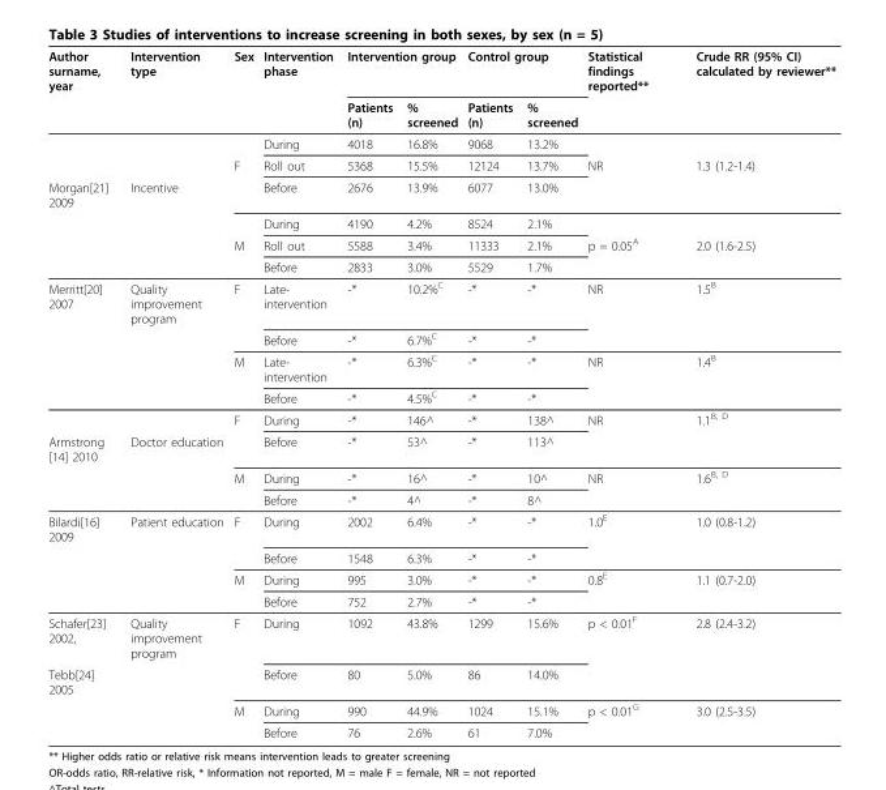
<table><thead><tr><td rowspan="2">Author surname, year</td><td rowspan="2">Intervention type</td><td rowspan="2">Sex</td><td rowspan="2">Intervention phase</td><td colspan="2">Intervention group</td><td colspan="2">Control group</td><td rowspan="2">Statistical findings reported**</td><td rowspan="2">Crude RR (95% CI) calculated by reviewer**</td></tr><tr><td>Patients (n)</td><td>% screened</td><td>Patients (n)</td><td>% screened</td></tr></thead><tbody><tr><td></td><td></td><td></td><td>During</td><td>4018</td><td>16.8%</td><td>9068</td><td>13.2%</td><td></td><td></td></tr><tr><td></td><td></td><td>F</td><td>Roll out</td><td>5368</td><td>15.5%</td><td>12124</td><td>13.7%</td><td>NR</td><td>1.3 (1.2-1.4)</td></tr><tr><td rowspan="4">Morgan[21] 2009</td><td>Incentive</td><td></td><td>Before</td><td>2676</td><td>13.9%</td><td>6077</td><td>13.0%</td><td></td><td></td></tr><tr><td></td><td></td><td>During</td><td>4190</td><td>4.2%</td><td>8524</td><td>2.1%</td><td></td><td></td></tr><tr><td></td><td>M</td><td>Roll out</td><td>5588</td><td>3.4%</td><td>11333</td><td>2.1%</td><td>p = 0.05<sup>A</sup></td><td>2.0 (1.6-2.5)</td></tr><tr><td></td><td></td><td>Before</td><td>2833</td><td>3.0%</td><td>5529</td><td>1.7%</td><td></td><td></td></tr><tr><td rowspan="5">Merritt[20] 2007</td><td>Quality improvement program</td><td>F</td><td>Late- intervention</td><td>-*</td><td>10.2%<sup>C</sup></td><td>-*</td><td>-*</td><td>NR</td><td>1.5<sup>B</sup></td></tr><tr><td></td><td></td><td>Before</td><td>-*</td><td>6.7%<sup>C</sup></td><td>-*</td><td>-*</td><td></td><td></td></tr><tr><td></td><td>M</td><td>Late- intervention</td><td>-*</td><td>6.3%<sup>C</sup></td><td>-*</td><td>-*</td><td>NR</td><td>1.4<sup>B</sup></td></tr><tr><td></td><td></td><td>Before</td><td>-*</td><td>4.5%<sup>C</sup></td><td>-*</td><td>-*</td><td></td><td></td></tr><tr><td></td><td>F</td><td>During</td><td>-*</td><td>146^</td><td>-*</td><td>138^</td><td>NR</td><td>1.1<sup>B, D</sup></td></tr><tr><td rowspan="3">Armstrong [14] 2010</td><td>Doctor education</td><td></td><td>Before</td><td>-*</td><td>53^</td><td>-*</td><td>113^</td><td></td><td></td></tr><tr><td></td><td>M</td><td>During</td><td>-*</td><td>16^</td><td>-*</td><td>10^</td><td>NR</td><td>1.6<sup>B, D</sup></td></tr><tr><td></td><td></td><td>Before</td><td>-*</td><td>4^</td><td>-*</td><td>8^</td><td></td><td></td></tr><tr><td rowspan="4">Bilardi[16] 2009</td><td>Patient education</td><td>F</td><td>During</td><td>2002</td><td>6.4%</td><td>-*</td><td>-*</td><td>1.0<sup>E</sup></td><td>1.0 (0.8-1.2)</td></tr><tr><td></td><td></td><td>Before</td><td>1548</td><td>6.3%</td><td>-*</td><td>-*</td><td></td><td></td></tr><tr><td></td><td>M</td><td>During</td><td>995</td><td>3.0%</td><td>-*</td><td>-*</td><td>0.8<sup>E</sup></td><td>1.1 (0.7-2.0)</td></tr><tr><td></td><td></td><td>Before</td><td>752</td><td>2.7%</td><td>-*</td><td>-*</td><td></td><td></td></tr><tr><td>Schafer[23] 2002,</td><td>Quality improvement program</td><td>F</td><td>During</td><td>1092</td><td>43.8%</td><td>1299</td><td>15.6%</td><td>p &lt; 0.01<sup>F</sup></td><td>2.8 (2.4-3.2)</td></tr><tr><td rowspan="3">Tebb[24] 2005</td><td></td><td></td><td>Before</td><td>80</td><td>5.0%</td><td>86</td><td>14.0%</td><td></td><td></td></tr><tr><td></td><td>M</td><td>During</td><td>990</td><td>44.9%</td><td>1024</td><td>15.1%</td><td>p &lt; 0.01<sup>G</sup></td><td>3.0 (2.5-3.5)</td></tr><tr><td></td><td></td><td>Before</td><td>76</td><td>2.6%</td><td>61</td><td>7.0%</td><td></td><td></td></tr></tbody></table>